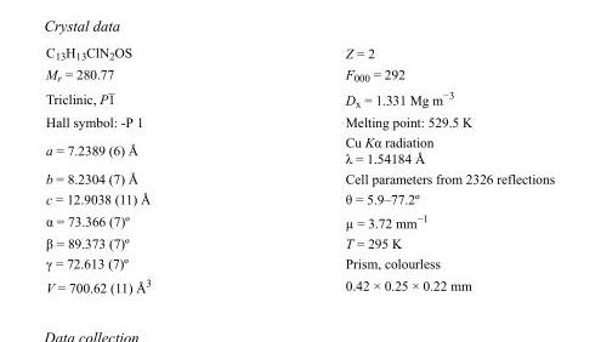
<table><tbody><tr><td>C<sub>13</sub>H<sub>13</sub>ClN<sub>2</sub>OS</td><td>Z = 2</td></tr><tr><td>M<sub>r</sub> = 280.77</td><td>F000 = 292</td></tr><tr><td>Triclinic, P1</td><td>D<sub>x</sub> = 1.331 Mg m<sup>−3</sup></td></tr><tr><td>Hall symbol: -P 1</td><td>Melting point: 529.5 K</td></tr><tr><td>a = 7.2389 (6) Å</td><td>Cu Kα radiation λ = 1.54184 Å</td></tr><tr><td>b = 8.2304 (7) Å</td><td>Cell parameters from 2326 reflections</td></tr><tr><td>c = 12.9038 (11) Å</td><td>θ = 5.9–77.2º</td></tr><tr><td>α = 73.366 (7)º</td><td>µ = 3.72 mm<sup>−1</sup></td></tr><tr><td>β = 89.373 (7)º</td><td>T = 295 K</td></tr><tr><td>γ = 72.613 (7)º</td><td>Prism, colourless</td></tr><tr><td>V = 700.62 (11) Å<sup>3</sup></td><td>0.42 × 0.25 × 0.22 mm</td></tr></tbody></table>